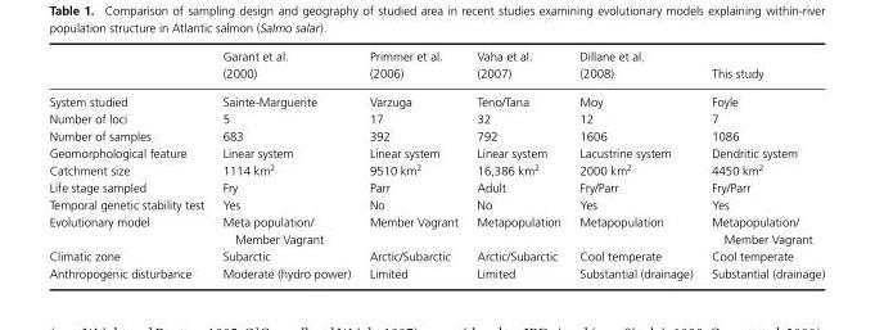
<table><thead><tr><td></td><td>Garant et al. (2000)</td><td>Primmer et al. (2006)</td><td>Vaha et al. (2007)</td><td>Dillane et al. (2008)</td><td>This study</td></tr></thead><tbody><tr><td>System studied</td><td>Sainte-Marguerite</td><td>Varzuga</td><td>Teno/Tana</td><td>Moy</td><td>Foyle</td></tr><tr><td>Number of loci</td><td>5</td><td>17</td><td>32</td><td>12</td><td>7</td></tr><tr><td>Number of samples</td><td>683</td><td>392</td><td>792</td><td>1606</td><td>1086</td></tr><tr><td>Geomorphological feature</td><td>Linear system</td><td>Linear system</td><td>Linear system</td><td>Lacustrine system</td><td>Dendritic system</td></tr><tr><td>Catchment size</td><td>1114 km<sup>2</sup></td><td>9510 km<sup>2</sup></td><td>16,386 km<sup>2</sup></td><td>2000 km<sup>2</sup></td><td>4450 km<sup>2</sup></td></tr><tr><td>Life stage sampled</td><td>Fry</td><td>Parr</td><td>Adult</td><td>Fry/Parr</td><td>Fry/Parr</td></tr><tr><td>Temporal genetic stability test</td><td>Yes</td><td>No</td><td>No</td><td>Yes</td><td>Yes</td></tr><tr><td>Evolutionary model</td><td>Meta population/ Member Vagrant</td><td>Member Vagrant</td><td>Metapopulation</td><td>Metapopulation</td><td>Metapopulation/ Member Vagrant</td></tr><tr><td>Climatic zone</td><td>Subarctic</td><td>Arctic/Subarctic</td><td>Arctic/Subarctic</td><td>Cool temperate</td><td>Cool temperate</td></tr><tr><td>Anthropogenic disturbance</td><td>Moderate (hydro power)</td><td>Limited</td><td>Limited</td><td>Substantial (drainage)</td><td>Substantial (drainage)</td></tr></tbody></table>